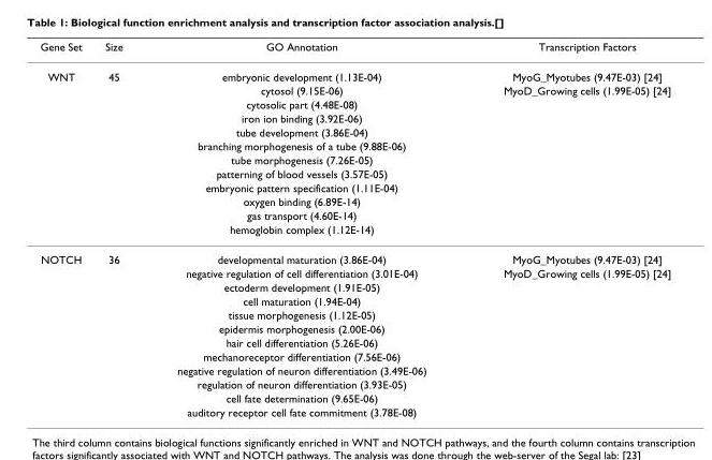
<table><thead><tr><td>Gene Set</td><td>Size</td><td>GO Annotation</td><td>Transcription Factors</td></tr></thead><tbody><tr><td rowspan="12">WNT</td><td>45</td><td>embryonic development (1.13E-04)</td><td>MyoG_Myotubes (9.47E-03) [24]</td></tr><tr><td></td><td>cytosol (9.15E-06)</td><td>MyoD_Growing cells (1.99E-05) [24]</td></tr><tr><td></td><td>cytosolic part (4.48E-08)</td><td></td></tr><tr><td></td><td>iron ion binding (3.92E-06)</td><td></td></tr><tr><td></td><td>tube development (3.86E-04)</td><td></td></tr><tr><td></td><td>branching morphogenesis of a tube (9.88E-06)</td><td></td></tr><tr><td></td><td>tube morphogenesis (7.26E-05)</td><td></td></tr><tr><td></td><td>patterning of blood vessels (3.57E-05)</td><td></td></tr><tr><td></td><td>embryonic pattern specification (1.11E-04)</td><td></td></tr><tr><td></td><td>oxygen binding (6.89E-14)</td><td></td></tr><tr><td></td><td>gas transport (4.60E-14)</td><td></td></tr><tr><td></td><td>hemoglobin complex (1.12E-14)</td><td></td></tr><tr><td rowspan="12">NOTCH</td><td>36</td><td>developmental maturation (3.86E-04)</td><td>MyoG_Myotubes (9.47E-03) [24]</td></tr><tr><td></td><td>negative regulation of cell differentiation (3.01E-04)</td><td>MyoD_Growing cells (1.99E-05) [24]</td></tr><tr><td></td><td>ectoderm development (1.91E-05)</td><td></td></tr><tr><td></td><td>cell maturation (1.94E-04)</td><td></td></tr><tr><td></td><td>tissue morphogenesis (1.12E-05)</td><td></td></tr><tr><td></td><td>epidermis morphogenesis (2.00E-06)</td><td></td></tr><tr><td></td><td>hair cell differentiation (5.26E-06)</td><td></td></tr><tr><td></td><td>mechanoreceptor differentiation (7.56E-06)</td><td></td></tr><tr><td></td><td>negative regulation of neuron differentiation (3.49E-06)</td><td></td></tr><tr><td></td><td>regulation of neuron differentiation (3.93E-05)</td><td></td></tr><tr><td></td><td>cell fate determination (9.65E-06)</td><td></td></tr><tr><td></td><td>auditory receptor cell fate commitment (3.78E-08)</td><td></td></tr></tbody></table>